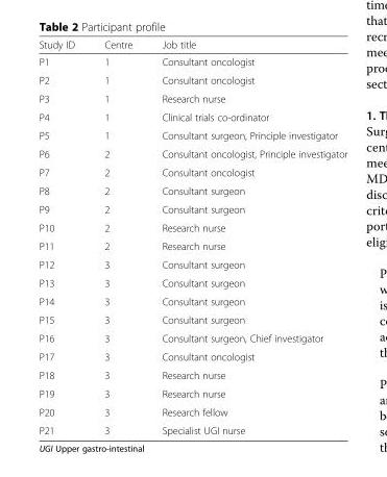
<table><thead><tr><td>Study ID</td><td>Centre</td><td>Job title</td></tr></thead><tbody><tr><td>P1</td><td>1</td><td>Consultant oncologist</td></tr><tr><td>P2</td><td>1</td><td>Consultant oncologist</td></tr><tr><td>P3</td><td>1</td><td>Research nurse</td></tr><tr><td>P4</td><td>1</td><td>Clinical trials co-ordinator</td></tr><tr><td>P5</td><td>1</td><td>Consultant surgeon, Principle investigator</td></tr><tr><td>P6</td><td>2</td><td>Consultant oncologist, Principle investigator</td></tr><tr><td>P7</td><td>2</td><td>Consultant oncologist</td></tr><tr><td>P8</td><td>2</td><td>Consultant surgeon</td></tr><tr><td>P9</td><td>2</td><td>Consultant surgeon</td></tr><tr><td>P10</td><td>2</td><td>Research nurse</td></tr><tr><td>P11</td><td>2</td><td>Research nurse</td></tr><tr><td>P12</td><td>3</td><td>Consultant surgeon</td></tr><tr><td>P13</td><td>3</td><td>Consultant surgeon</td></tr><tr><td>P14</td><td>3</td><td>Consultant surgeon</td></tr><tr><td>P15</td><td>3</td><td>Consultant surgeon</td></tr><tr><td>P16</td><td>3</td><td>Consultant surgeon, Chief investigator</td></tr><tr><td>P17</td><td>3</td><td>Consultant oncologist</td></tr><tr><td>P18</td><td>3</td><td>Research nurse</td></tr><tr><td>P19</td><td>3</td><td>Research nurse</td></tr><tr><td>P20</td><td>3</td><td>Research fellow</td></tr><tr><td>P21</td><td>3</td><td>Specialist UGI nurse</td></tr></tbody></table>